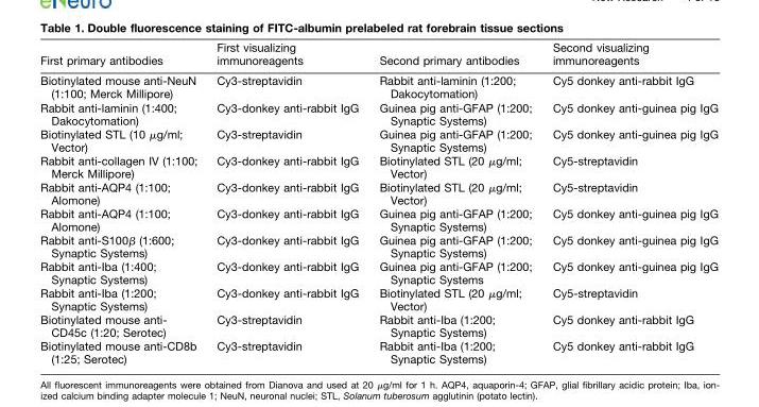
<table><thead><tr><td>First primary antibodies</td><td>First visualizing immunoreagents</td><td>Second primary antibodies</td><td>Second visualizing immunoreagents</td></tr></thead><tbody><tr><td>Biotinylated mouse anti-NeuN (1:100; Merck Millipore)</td><td>Cy3-streptavidin</td><td>Rabbit anti-laminin (1:200; Dakocytomation)</td><td>Cy5 donkey anti-rabbit IgG</td></tr><tr><td>Rabbit anti-laminin (1:400; Dakocytomation)</td><td>Cy3-donkey anti-rabbit IgG</td><td>Guinea pig anti-GFAP (1:200; Synaptic Systems)</td><td>Cy5 donkey anti-guinea pig IgG</td></tr><tr><td>Biotinylated STL (10 µg/ml; Vector)</td><td>Cy3-streptavidin</td><td>Guinea pig anti-GFAP (1:200; Synaptic Systems)</td><td>Cy5 donkey anti-guinea pig IgG</td></tr><tr><td>Rabbit anti-collagen IV (1:100; Merck Millipore)</td><td>Cy3-donkey anti-rabbit IgG</td><td>Biotinylated STL (20 µg/ml; Vector)</td><td>Cy5-streptavidin</td></tr><tr><td>Rabbit anti-AQP4 (1:100; Alomone)</td><td>Cy3-donkey anti-rabbit IgG</td><td>Biotinylated STL (20 µg/ml; Vector)</td><td>Cy5-streptavidin</td></tr><tr><td>Rabbit anti-AQP4 (1:100; Alomone)</td><td>Cy3-donkey anti-rabbit IgG</td><td>Guinea pig anti-GFAP (1:200; Synaptic Systems)</td><td>Cy5 donkey anti-guinea pig IgG</td></tr><tr><td>Rabbit anti-S100β (1:600; Synaptic Systems)</td><td>Cy3-donkey anti-rabbit IgG</td><td>Guinea pig anti-GFAP (1:200; Synaptic Systems)</td><td>Cy5 donkey anti-guinea pig IgG</td></tr><tr><td>Rabbit anti-Iba (1:400; Synaptic Systems)</td><td>Cy3-donkey anti-rabbit IgG</td><td>Guinea pig anti-GFAP (1:200; Synaptic Systems</td><td>Cy5 donkey anti-guinea pig IgG</td></tr><tr><td>Rabbit anti-Iba (1:200; Synaptic Systems)</td><td>Cy3-donkey anti-rabbit IgG</td><td>Biotinylated STL (20 µg/ml; Vector)</td><td>Cy5-streptavidin</td></tr><tr><td>Biotinylated mouse anti- CD45c (1:20; Serotec)</td><td>Cy3-streptavidin</td><td>Rabbit anti-Iba (1:200; Synaptic Systems)</td><td>Cy5 donkey anti-rabbit IgG</td></tr><tr><td>Biotinylated mouse anti-CD8b (1:25; Serotec)</td><td>Cy3-streptavidin</td><td>Rabbit anti-Iba (1:200; Synaptic Systems)</td><td>Cy5 donkey anti-rabbit IgG</td></tr></tbody></table>